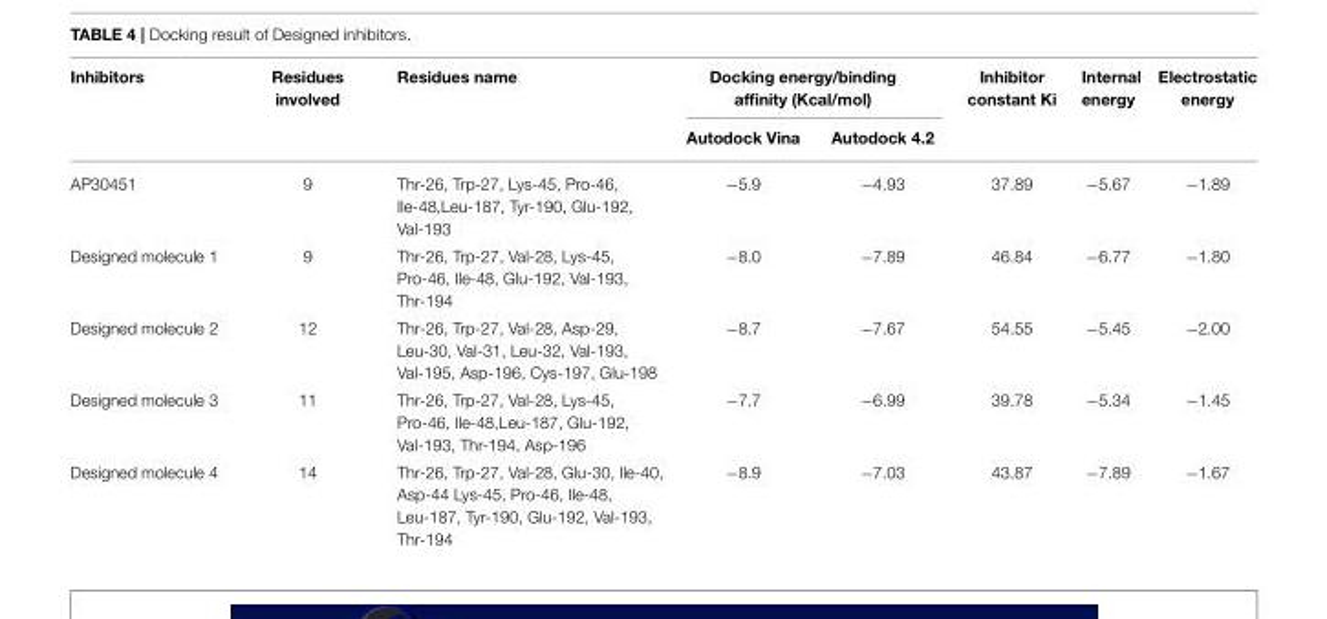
<table><thead><tr><td rowspan="2">Inhibitors</td><td rowspan="2">Residues involved</td><td rowspan="2">Residues name</td><td colspan="2">Docking energy/binding affinity (Kcal/mol)</td><td rowspan="2">Inhibitor constant Ki</td><td rowspan="2">Internal energy</td><td rowspan="2">Electrostatic energy</td></tr><tr><td>Autodock Vina</td><td>Autodock 4.2</td></tr></thead><tbody><tr><td>AP30451</td><td>9</td><td>Thr-26, Trp-27, Lys-45, Pro-46, Ile-48,Leu-187, Tyr-190, Glu-192, Val-193</td><td>−5.9</td><td>−4.93</td><td>37.89</td><td>−5.67</td><td>−1.89</td></tr><tr><td>Designed molecule 1</td><td>9</td><td>Thr-26, Trp-27, Val-28, Lys-45, Pro-46, Ile-48, Glu-192, Val-193, Thr-194</td><td>−8.0</td><td>−7.89</td><td>46.84</td><td>−6.77</td><td>−1.80</td></tr><tr><td>Designed molecule 2</td><td>12</td><td>Thr-26, Trp-27, Val-28, Asp-29, Leu-30, Val-31, Leu-32, Val-193, Val-195, Asp-196, Cys-197, Glu-198</td><td>−8.7</td><td>−7.67</td><td>54.55</td><td>−5.45</td><td>−2.00</td></tr><tr><td>Designed molecule 3</td><td>11</td><td>Thr-26, Trp-27, Val-28, Lys-45, Pro-46, Ile-48,Leu-187, Glu-192, Val-193, Thr-194, Asp-196</td><td>−7.7</td><td>−6.99</td><td>39.78</td><td>−5.34</td><td>−1.45</td></tr><tr><td>Designed molecule 4</td><td>14</td><td>Thr-26, Trp-27, Val-28, Glu-30, Ile-40, Asp-44 Lys-45, Pro-46, Ile-48, Leu-187, Tyr-190, Glu-192, Val-193, Thr-194</td><td>−8.9</td><td>−7.03</td><td>43.87</td><td>−7.89</td><td>−1.67</td></tr></tbody></table>